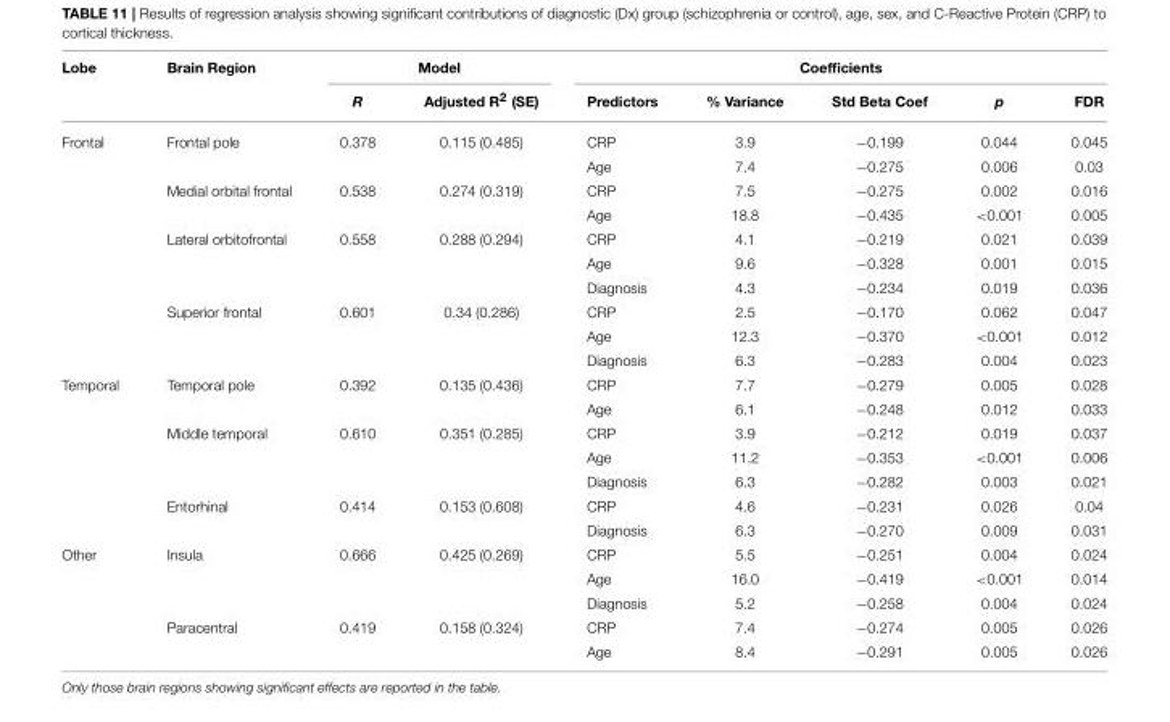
<table><thead><tr><td rowspan="2">Lobe</td><td rowspan="2">Brain Region</td><td colspan="2">Model</td><td colspan="5">Coefficients</td></tr><tr><td>R</td><td>Adjusted R<sup>2</sup> (SE)</td><td>Predictors</td><td>% Variance</td><td>Std Beta Coef</td><td>p</td><td>FDR</td></tr></thead><tbody><tr><td rowspan="10">Frontal</td><td>Frontal pole</td><td>0.378</td><td>0.115 (0.485)</td><td>CRP</td><td>3.9</td><td>−0.199</td><td>0.044</td><td>0.045</td></tr><tr><td></td><td></td><td></td><td>Age</td><td>7.4</td><td>−0.275</td><td>0.006</td><td>0.03</td></tr><tr><td>Medial orbital frontal</td><td>0.538</td><td>0.274 (0.319)</td><td>CRP</td><td>7.5</td><td>−0.275</td><td>0.002</td><td>0.016</td></tr><tr><td></td><td></td><td></td><td>Age</td><td>18.8</td><td>−0.435</td><td>&lt;0.001</td><td>0.005</td></tr><tr><td>Lateral orbitofrontal</td><td>0.558</td><td>0.288 (0.294)</td><td>CRP</td><td>4.1</td><td>−0.219</td><td>0.021</td><td>0.039</td></tr><tr><td></td><td></td><td></td><td>Age</td><td>9.6</td><td>−0.328</td><td>0.001</td><td>0.015</td></tr><tr><td></td><td></td><td></td><td>Diagnosis</td><td>4.3</td><td>−0.234</td><td>0.019</td><td>0.036</td></tr><tr><td>Superior frontal</td><td>0.601</td><td>0.34 (0.286)</td><td>CRP</td><td>2.5</td><td>−0.170</td><td>0.062</td><td>0.047</td></tr><tr><td></td><td></td><td></td><td>Age</td><td>12.3</td><td>−0.370</td><td>&lt;0.001</td><td>0.012</td></tr><tr><td></td><td></td><td></td><td>Diagnosis</td><td>6.3</td><td>−0.283</td><td>0.004</td><td>0.023</td></tr><tr><td rowspan="7">Temporal</td><td>Temporal pole</td><td>0.392</td><td>0.135 (0.436)</td><td>CRP</td><td>7.7</td><td>−0.279</td><td>0.005</td><td>0.028</td></tr><tr><td></td><td></td><td></td><td>Age</td><td>6.1</td><td>−0.248</td><td>0.012</td><td>0.033</td></tr><tr><td>Middle temporal</td><td>0.610</td><td>0.351 (0.285)</td><td>CRP</td><td>3.9</td><td>−0.212</td><td>0.019</td><td>0.037</td></tr><tr><td></td><td></td><td></td><td>Age</td><td>11.2</td><td>−0.353</td><td>&lt;0.001</td><td>0.006</td></tr><tr><td></td><td></td><td></td><td>Diagnosis</td><td>6.3</td><td>−0.282</td><td>0.003</td><td>0.021</td></tr><tr><td>Entorhinal</td><td>0.414</td><td>0.153 (0.608)</td><td>CRP</td><td>4.6</td><td>−0.231</td><td>0.026</td><td>0.04</td></tr><tr><td></td><td></td><td></td><td>Diagnosis</td><td>6.3</td><td>−0.270</td><td>0.009</td><td>0.031</td></tr><tr><td rowspan="5">Other</td><td>Insula</td><td>0.666</td><td>0.425 (0.269)</td><td>CRP</td><td>5.5</td><td>−0.251</td><td>0.004</td><td>0.024</td></tr><tr><td></td><td></td><td></td><td>Age</td><td>16.0</td><td>−0.419</td><td>&lt;0.001</td><td>0.014</td></tr><tr><td></td><td></td><td></td><td>Diagnosis</td><td>5.2</td><td>−0.258</td><td>0.004</td><td>0.024</td></tr><tr><td>Paracentral</td><td>0.419</td><td>0.158 (0.324)</td><td>CRP</td><td>7.4</td><td>−0.274</td><td>0.005</td><td>0.026</td></tr><tr><td></td><td></td><td></td><td>Age</td><td>8.4</td><td>−0.291</td><td>0.005</td><td>0.026</td></tr></tbody></table>